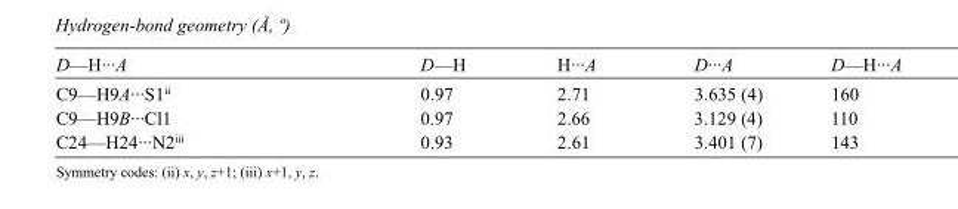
<table><tbody><tr><td>D—H···A</td><td>D—H</td><td>H···A</td><td>D···A</td><td>D—H···A</td></tr><tr><td>C9—H9A···S1<sup>ii</sup></td><td>0.97</td><td>2.71</td><td>3.635 (4)</td><td>160</td></tr><tr><td>C9—H9B···Cl1</td><td>0.97</td><td>2.66</td><td>3.129 (4)</td><td>110</td></tr><tr><td>C24—H24···N2<sup>iii</sup></td><td>0.93</td><td>2.61</td><td>3.401 (7)</td><td>143</td></tr></tbody></table>